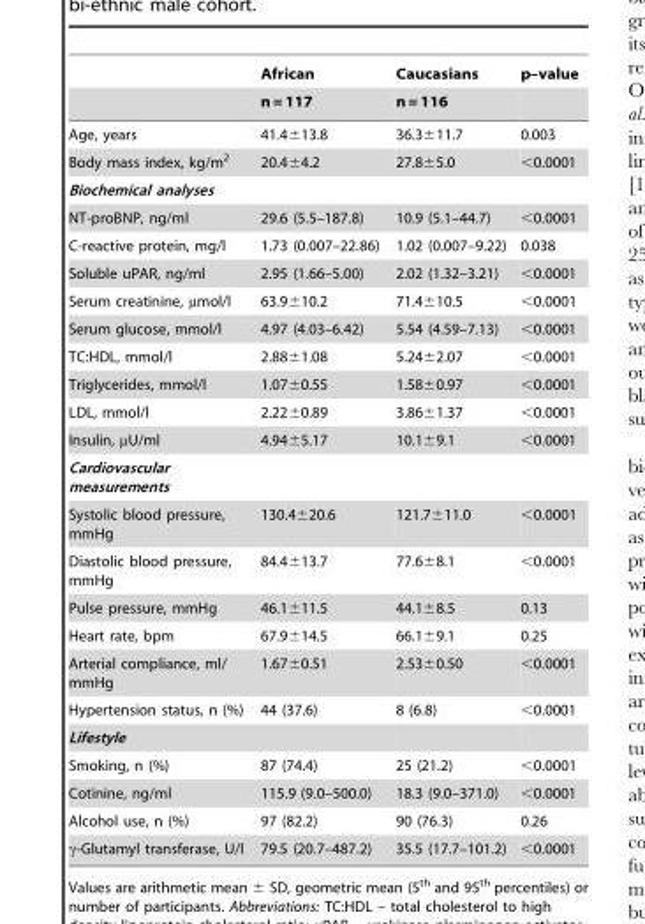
<table><thead><tr><td rowspan="2"></td><td rowspan="2">African n = 117</td><td rowspan="2">Caucasians n = 116</td><td rowspan="2">p–value</td></tr><tr></tr></thead><tbody><tr><td>Age, years</td><td>41.4±13.8</td><td>36.3±11.7</td><td>0.003</td></tr><tr><td>Body mass index, kg/m<sup>2</sup></td><td>20.4±4.2</td><td>27.8±5.0</td><td>&lt;0.0001</td></tr><tr><td colspan="4">Biochemical analyses</td></tr><tr><td>NT-proBNP, ng/ml</td><td>29.6 (5.5–187.8)</td><td>10.9 (5.1–44.7)</td><td>&lt;0.0001</td></tr><tr><td>C-reactive protein, mg/l</td><td>1.73 (0.007–22.86)</td><td>1.02 (0.007–9.22)</td><td>0.038</td></tr><tr><td>Soluble uPAR, ng/ml</td><td>2.95 (1.66–5.00)</td><td>2.02 (1.32–3.21)</td><td>&lt;0.0001</td></tr><tr><td>Serum creatinine, µmol/l</td><td>63.9±10.2</td><td>71.4±10.5</td><td>&lt;0.0001</td></tr><tr><td>Serum glucose, mmol/l</td><td>4.97 (4.03–6.42)</td><td>5.54 (4.59–7.13)</td><td>&lt;0.0001</td></tr><tr><td>TC:HDL, mmol/l</td><td>2.88±1.08</td><td>5.24±2.07</td><td>&lt;0.0001</td></tr><tr><td>Triglycerides, mmol/l</td><td>1.07±0.55</td><td>1.58±0.97</td><td>&lt;0.0001</td></tr><tr><td>LDL, mmol/l</td><td>2.22±0.89</td><td>3.86±1.37</td><td>&lt;0.0001</td></tr><tr><td>Insulin, µU/ml</td><td>4.94±5.17</td><td>10.1±9.1</td><td>&lt;0.0001</td></tr><tr><td colspan="4">Cardiovascular measurements</td></tr><tr><td>Systolic blood pressure, mmHg</td><td>130.4±20.6</td><td>121.7±11.0</td><td>&lt;0.0001</td></tr><tr><td>Diastolic blood pressure, mmHg</td><td>84.4±13.7</td><td>77.6±8.1</td><td>&lt;0.0001</td></tr><tr><td>Pulse pressure, mmHg</td><td>46.1±11.5</td><td>44.1±8.5</td><td>0.13</td></tr><tr><td>Heart rate, bpm</td><td>67.9±14.5</td><td>66.1±9.1</td><td>0.25</td></tr><tr><td>Arterial compliance, ml/ mmHg</td><td>1.67±0.51</td><td>2.53±0.50</td><td>&lt;0.0001</td></tr><tr><td>Hypertension status, n (%)</td><td>44 (37.6)</td><td>8 (6.8)</td><td>&lt;0.0001</td></tr><tr><td colspan="4">Lifestyle</td></tr><tr><td>Smoking, n (%)</td><td>87 (74.4)</td><td>25 (21.2)</td><td>&lt;0.0001</td></tr><tr><td>Cotinine, ng/ml</td><td>115.9 (9.0–500.0)</td><td>18.3 (9.0–371.0)</td><td>&lt;0.0001</td></tr><tr><td>Alcohol use, n (%)</td><td>97 (82.2)</td><td>90 (76.3)</td><td>0.26</td></tr><tr><td>γ-Glutamyl transferase, U/l</td><td>79.5 (20.7–487.2)</td><td>35.5 (17.7–101.2)</td><td>&lt;0.0001</td></tr></tbody></table>